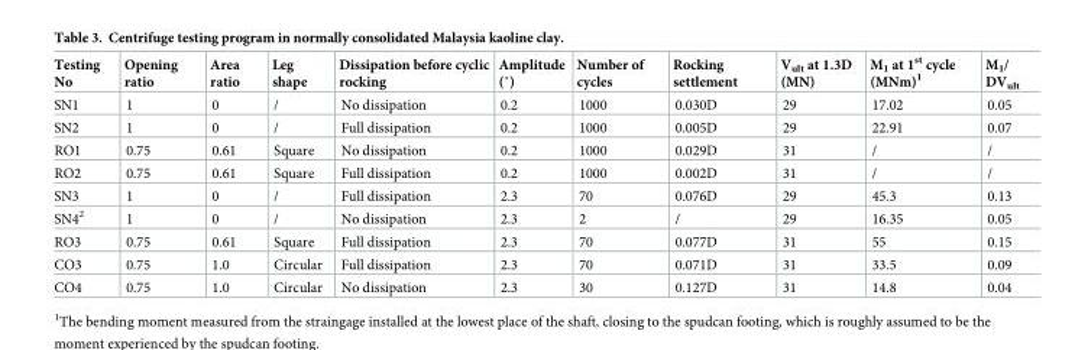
<table><thead><tr><td>Testing No</td><td>Opening ratio</td><td>Area ratio</td><td>Leg shape</td><td>Dissipation before cyclic rocking</td><td>Amplitude (˚)</td><td>Number of cycles</td><td>Rocking settlement</td><td>V<sub>ult</sub> at 1.3D (MN)</td><td>M<sub>1</sub> at 1<sup>st</sup> cycle (MNm)<sup>1</sup></td><td>M<sub>1</sub>/ DV<sub>ult</sub></td></tr></thead><tbody><tr><td>SN1</td><td>1</td><td>0</td><td>/</td><td>No dissipation</td><td>0.2</td><td>1000</td><td>0.030D</td><td>29</td><td>17.02</td><td>0.05</td></tr><tr><td>SN2</td><td>1</td><td>0</td><td>/</td><td>Full dissipation</td><td>0.2</td><td>1000</td><td>0.005D</td><td>29</td><td>22.91</td><td>0.07</td></tr><tr><td>RO1</td><td>0.75</td><td>0.61</td><td>Square</td><td>No dissipation</td><td>0.2</td><td>1000</td><td>0.029D</td><td>31</td><td>/</td><td>/</td></tr><tr><td>RO2</td><td>0.75</td><td>0.61</td><td>Square</td><td>Full dissipation</td><td>0.2</td><td>1000</td><td>0.002D</td><td>31</td><td>/</td><td>/</td></tr><tr><td>SN3</td><td>1</td><td>0</td><td>/</td><td>Full dissipation</td><td>2.3</td><td>70</td><td>0.076D</td><td>29</td><td>45.3</td><td>0.13</td></tr><tr><td>SN4<sup>2</sup></td><td>1</td><td>0</td><td>/</td><td>No dissipation</td><td>2.3</td><td>2</td><td>/</td><td>29</td><td>16.35</td><td>0.05</td></tr><tr><td>RO3</td><td>0.75</td><td>0.61</td><td>Square</td><td>Full dissipation</td><td>2.3</td><td>70</td><td>0.077D</td><td>31</td><td>55</td><td>0.15</td></tr><tr><td>CO3</td><td>0.75</td><td>1.0</td><td>Circular</td><td>Full dissipation</td><td>2.3</td><td>70</td><td>0.071D</td><td>31</td><td>33.5</td><td>0.09</td></tr><tr><td>CO4</td><td>0.75</td><td>1.0</td><td>Circular</td><td>No dissipation</td><td>2.3</td><td>30</td><td>0.127D</td><td>31</td><td>14.8</td><td>0.04</td></tr></tbody></table>